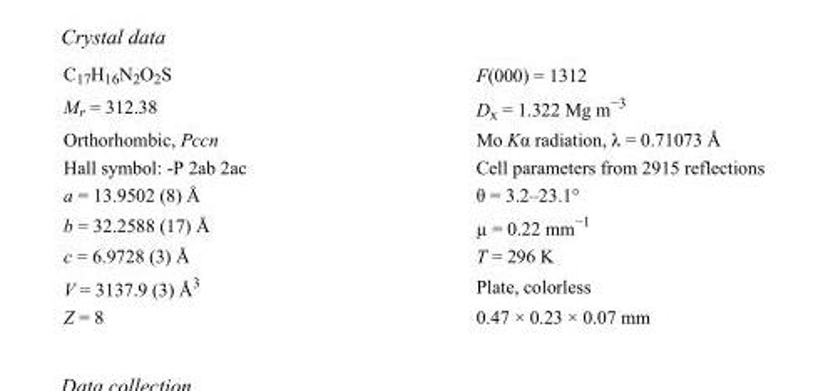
<table><tbody><tr><td>C<sub>17</sub>H<sub>16</sub>N<sub>2</sub>O<sub>2</sub>S</td><td>F(000) = 1312</td></tr><tr><td>M<sub>r</sub> = 312.38</td><td>D<sub>x</sub> = 1.322 Mg m<sup>−3</sup></td></tr><tr><td>Orthorhombic, Pccn</td><td>Mo Kα radiation, λ = 0.71073 Å</td></tr><tr><td>Hall symbol: -P 2ab 2ac</td><td>Cell parameters from 2915 reflections</td></tr><tr><td>a = 13.9502 (8) Å</td><td>θ = 3.2–23.1°</td></tr><tr><td>b = 32.2588 (17) Å</td><td>µ = 0.22 mm<sup>−1</sup></td></tr><tr><td>c = 6.9728 (3) Å</td><td>T = 296 K</td></tr><tr><td>V = 3137.9 (3) Å<sup>3</sup></td><td>Plate, colorless</td></tr><tr><td>Z = 8</td><td>0.47 × 0.23 × 0.07 mm</td></tr></tbody></table>